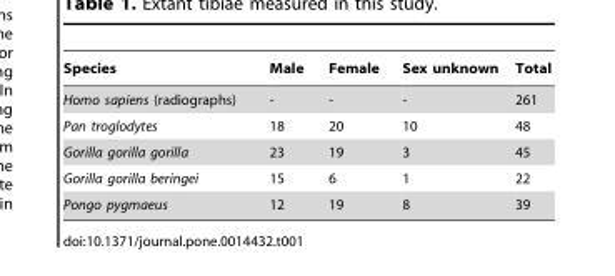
<table><thead><tr><td>Species</td><td>Male</td><td>Female</td><td>Sex unknown</td><td>Total</td></tr></thead><tbody><tr><td>Homo sapiens (radiographs)</td><td>-</td><td>-</td><td>-</td><td>261</td></tr><tr><td>Pan troglodytes</td><td>18</td><td>20</td><td>10</td><td>48</td></tr><tr><td>Gorilla gorilla gorilla</td><td>23</td><td>19</td><td>3</td><td>45</td></tr><tr><td>Gorilla gorilla beringei</td><td>15</td><td>6</td><td>1</td><td>22</td></tr><tr><td>Pongo pygmaeus</td><td>12</td><td>19</td><td>8</td><td>39</td></tr></tbody></table>